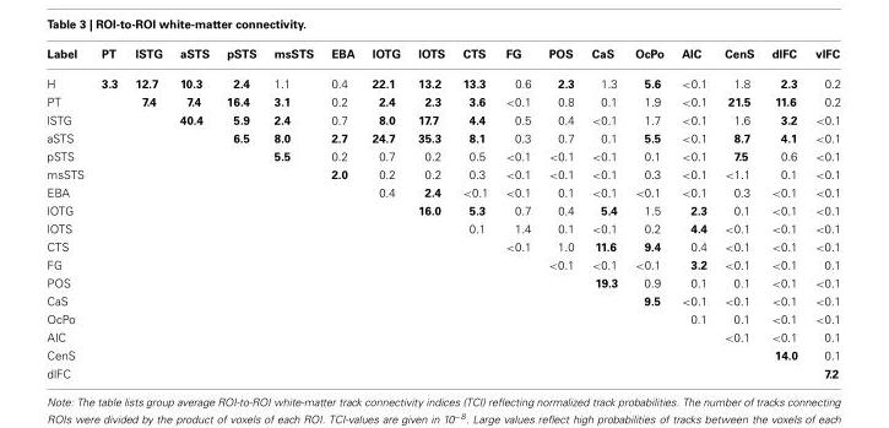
<table><thead><tr><td>Label</td><td>PT</td><td>lSTG</td><td>aSTS</td><td>pSTS</td><td>msSTS</td><td>EBA</td><td>lOTG</td><td>lOTS</td><td>CTS</td><td>FG</td><td>POS</td><td>CaS</td><td>OcPo</td><td>AIC</td><td>CenS</td><td>dlFC</td><td>vlFC</td></tr></thead><tbody><tr><td>H</td><td>3.3</td><td>12.7</td><td>10.3</td><td>2.4</td><td>1.1</td><td>0.4</td><td>22.1</td><td>13.2</td><td>13.3</td><td>0.6</td><td>2.3</td><td>1.3</td><td>5.6</td><td>&lt;0.1</td><td>1.8</td><td>2.3</td><td>0.2</td></tr><tr><td>PT</td><td></td><td>7.4</td><td>7.4</td><td>16.4</td><td>3.1</td><td>0.2</td><td>2.4</td><td>2.3</td><td>3.6</td><td>&lt;0.1</td><td>0.8</td><td>0.1</td><td>1.9</td><td>&lt;0.1</td><td>21.5</td><td>11.6</td><td>0.2</td></tr><tr><td>lSTG</td><td></td><td></td><td>40.4</td><td>5.9</td><td>2.4</td><td>0.7</td><td>8.0</td><td>17.7</td><td>4.4</td><td>0.5</td><td>0.4</td><td>&lt;0.1</td><td>1.7</td><td>&lt;0.1</td><td>1.6</td><td>3.2</td><td>&lt;0.1</td></tr><tr><td>aSTS</td><td></td><td></td><td></td><td>6.5</td><td>8.0</td><td>2.7</td><td>24.7</td><td>35.3</td><td>8.1</td><td>0.3</td><td>0.7</td><td>0.1</td><td>5.5</td><td>&lt;0.1</td><td>8.7</td><td>4.1</td><td>&lt;0.1</td></tr><tr><td>pSTS</td><td></td><td></td><td></td><td></td><td>5.5</td><td>0.2</td><td>0.7</td><td>0.2</td><td>0.5</td><td>&lt;0.1</td><td>&lt;0.1</td><td>&lt;0.1</td><td>0.1</td><td>&lt;0.1</td><td>7.5</td><td>0.6</td><td>&lt;0.1</td></tr><tr><td>msSTS</td><td></td><td></td><td></td><td></td><td></td><td>2.0</td><td>0.2</td><td>0.2</td><td>0.3</td><td>&lt;0.1</td><td>&lt;0.1</td><td>&lt;0.1</td><td>0.3</td><td>&lt;0.1</td><td>&lt;1.1</td><td>0.1</td><td>&lt;0.1</td></tr><tr><td>EBA</td><td></td><td></td><td></td><td></td><td></td><td></td><td>0.4</td><td>2.4</td><td>&lt;0.1</td><td>&lt;0.1</td><td>0.1</td><td>&lt;0.1</td><td>&lt;0.1</td><td>&lt;0.1</td><td>0.3</td><td>&lt;0.1</td><td>&lt;0.1</td></tr><tr><td>lOTG</td><td></td><td></td><td></td><td></td><td></td><td></td><td></td><td>16.0</td><td>5.3</td><td>0.7</td><td>0.4</td><td>5.4</td><td>1.5</td><td>2.3</td><td>0.1</td><td>&lt;0.1</td><td>&lt;0.1</td></tr><tr><td>lOTS</td><td></td><td></td><td></td><td></td><td></td><td></td><td></td><td></td><td>0.1</td><td>1.4</td><td>0.1</td><td>&lt;0.1</td><td>0.2</td><td>4.4</td><td>&lt;0.1</td><td>&lt;0.1</td><td>&lt;0.1</td></tr><tr><td>CTS</td><td></td><td></td><td></td><td></td><td></td><td></td><td></td><td></td><td></td><td>&lt;0.1</td><td>1.0</td><td>11.6</td><td>9.4</td><td>0.4</td><td>&lt;0.1</td><td>&lt;0.1</td><td>&lt;0.1</td></tr><tr><td>FG</td><td></td><td></td><td></td><td></td><td></td><td></td><td></td><td></td><td></td><td></td><td>&lt;0.1</td><td>&lt;0.1</td><td>&lt;0.1</td><td>3.2</td><td>&lt;0.1</td><td>&lt;0.1</td><td>0.1</td></tr><tr><td>POS</td><td></td><td></td><td></td><td></td><td></td><td></td><td></td><td></td><td></td><td></td><td></td><td>19.3</td><td>0.9</td><td>0.1</td><td>0.1</td><td>&lt;0.1</td><td>&lt;0.1</td></tr><tr><td>CaS</td><td></td><td></td><td></td><td></td><td></td><td></td><td></td><td></td><td></td><td></td><td></td><td></td><td>9.5</td><td>&lt;0.1</td><td>&lt;0.1</td><td>&lt;0.1</td><td>&lt;0.1</td></tr><tr><td>OcPo</td><td></td><td></td><td></td><td></td><td></td><td></td><td></td><td></td><td></td><td></td><td></td><td></td><td></td><td>0.1</td><td>0.1</td><td>&lt;0.1</td><td>&lt;0.1</td></tr><tr><td>AIC</td><td></td><td></td><td></td><td></td><td></td><td></td><td></td><td></td><td></td><td></td><td></td><td></td><td></td><td></td><td>&lt;0.1</td><td>&lt;0.1</td><td>0.1</td></tr><tr><td>CenS</td><td></td><td></td><td></td><td></td><td></td><td></td><td></td><td></td><td></td><td></td><td></td><td></td><td></td><td></td><td></td><td>14.0</td><td>0.1</td></tr><tr><td>dlFC</td><td></td><td></td><td></td><td></td><td></td><td></td><td></td><td></td><td></td><td></td><td></td><td></td><td></td><td></td><td></td><td></td><td>7.2</td></tr></tbody></table>